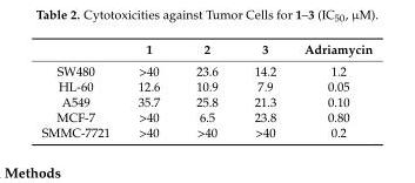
<table><thead><tr><td></td><td>1</td><td>2</td><td>3</td><td>Adriamycin</td></tr></thead><tbody><tr><td>SW480</td><td>&gt;40</td><td>23.6</td><td>14.2</td><td>1.2</td></tr><tr><td>HL-60</td><td>12.6</td><td>10.9</td><td>7.9</td><td>0.05</td></tr><tr><td>A549</td><td>35.7</td><td>25.8</td><td>21.3</td><td>0.10</td></tr><tr><td>MCF-7</td><td>&gt;40</td><td>6.5</td><td>23.8</td><td>0.80</td></tr><tr><td>SMMC-7721</td><td>&gt;40</td><td>&gt;40</td><td>&gt;40</td><td>0.2</td></tr></tbody></table>